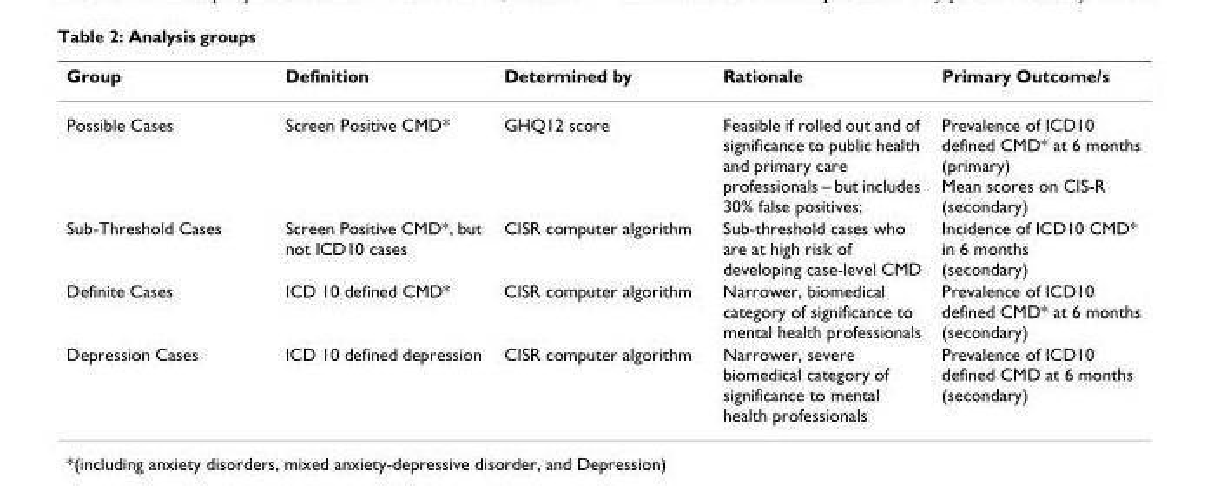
<table><thead><tr><td>Group</td><td>Definition</td><td>Determined by</td><td>Rationale</td><td>Primary Outcome/s</td></tr></thead><tbody><tr><td>Possible Cases</td><td>Screen Positive CMD*</td><td>GHQ12 score</td><td>Feasible if rolled out and of significance to public health and primary care professionals – but includes 30% false positives;</td><td>Prevalence of ICD10 defined CMD* at 6 months (primary) Mean scores on CIS-R (secondary)</td></tr><tr><td>Sub-Threshold Cases</td><td>Screen Positive CMD*, but not ICD10 cases</td><td>CISR computer algorithm</td><td>Sub-threshold cases who are at high risk of developing case-level CMD</td><td>Incidence of ICD10 CMD* in 6 months (secondary)</td></tr><tr><td>Definite Cases</td><td>ICD 10 defined CMD*</td><td>CISR computer algorithm</td><td>Narrower, biomedical category of significance to mental health professionals</td><td>Prevalence of ICD10 defined CMD* at 6 months (secondary)</td></tr><tr><td>Depression Cases</td><td>ICD 10 defined depression</td><td>CISR computer algorithm</td><td>Narrower, severe biomedical category of significance to mental health professionals</td><td>Prevalence of ICD10 defined CMD at 6 months (secondary)</td></tr></tbody></table>